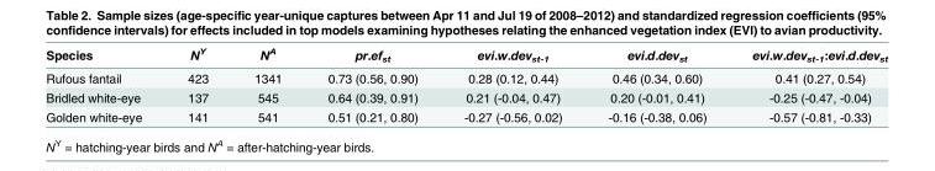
<table><thead><tr><td>Species</td><td>N<sup>Y</sup></td><td>N<sup>A</sup></td><td>pr.ef<sub>st</sub></td><td>evi.w.dev<sub>st-1</sub></td><td>evi.d.dev<sub>st</sub></td><td>evi.w.dev<sub>st-1</sub>:evi.d.dev<sub>st</sub></td></tr></thead><tbody><tr><td>Rufous fantail</td><td>423</td><td>1341</td><td>0.73 (0.56, 0.90)</td><td>0.28 (0.12, 0.44)</td><td>0.46 (0.34, 0.60)</td><td>0.41 (0.27, 0.54)</td></tr><tr><td>Bridled white-eye</td><td>137</td><td>545</td><td>0.64 (0.39, 0.91)</td><td>0.21 (-0.04, 0.47)</td><td>0.20 (-0.01, 0.41)</td><td>-0.25 (-0.47, -0.04)</td></tr><tr><td>Golden white-eye</td><td>141</td><td>541</td><td>0.51 (0.21, 0.80)</td><td>-0.27 (-0.56, 0.02)</td><td>-0.16 (-0.38, 0.06)</td><td>-0.57 (-0.81, -0.33)</td></tr></tbody></table>